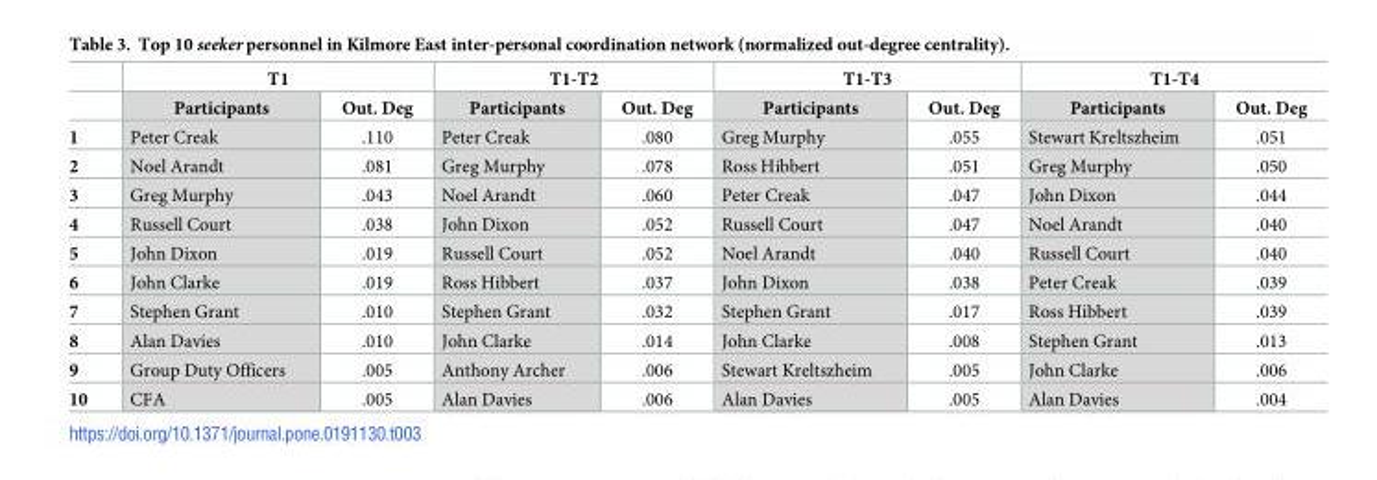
<table><thead><tr><td rowspan="2"></td><td colspan="2">T1</td><td colspan="2">T1-T2</td><td colspan="2">T1-T3</td><td colspan="2">T1-T4</td></tr><tr><td>Participants</td><td>Out. Deg</td><td>Participants</td><td>Out. Deg</td><td>Participants</td><td>Out. Deg</td><td>Participants</td><td>Out. Deg</td></tr></thead><tbody><tr><td>1</td><td>Peter Creak</td><td>.110</td><td>Peter Creak</td><td>.080</td><td>Greg Murphy</td><td>.055</td><td>Stewart Kreltszheim</td><td>.051</td></tr><tr><td>2</td><td>Noel Arandt</td><td>.081</td><td>Greg Murphy</td><td>.078</td><td>Ross Hibbert</td><td>.051</td><td>Greg Murphy</td><td>.050</td></tr><tr><td>3</td><td>Greg Murphy</td><td>.043</td><td>Noel Arandt</td><td>.060</td><td>Peter Creak</td><td>.047</td><td>John Dixon</td><td>.044</td></tr><tr><td>4</td><td>Russell Court</td><td>.038</td><td>John Dixon</td><td>.052</td><td>Russell Court</td><td>.047</td><td>Noel Arandt</td><td>.040</td></tr><tr><td>5</td><td>John Dixon</td><td>.019</td><td>Russell Court</td><td>.052</td><td>Noel Arandt</td><td>.040</td><td>Russell Court</td><td>.040</td></tr><tr><td>6</td><td>John Clarke</td><td>.019</td><td>Ross Hibbert</td><td>.037</td><td>John Dixon</td><td>.038</td><td>Peter Creak</td><td>.039</td></tr><tr><td>7</td><td>Stephen Grant</td><td>.010</td><td>Stephen Grant</td><td>.032</td><td>Stephen Grant</td><td>.017</td><td>Ross Hibbert</td><td>.039</td></tr><tr><td>8</td><td>Alan Davies</td><td>.010</td><td>John Clarke</td><td>.014</td><td>John Clarke</td><td>.008</td><td>Stephen Grant</td><td>.013</td></tr><tr><td>9</td><td>Group Duty Officers</td><td>.005</td><td>Anthony Archer</td><td>.006</td><td>Stewart Kreltszheim</td><td>.005</td><td>John Clarke</td><td>.006</td></tr><tr><td>10</td><td>CFA</td><td>.005</td><td>Alan Davies</td><td>.006</td><td>Alan Davies</td><td>.005</td><td>Alan Davies</td><td>.004</td></tr></tbody></table>